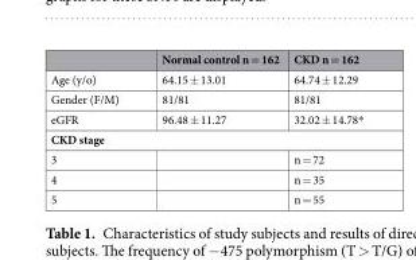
<table><thead><tr><td></td><td>Normal control n = 162</td><td>CKD n = 162</td></tr></thead><tbody><tr><td>Age (y/o)</td><td>64.15 ± 13.01</td><td>64.74 ± 12.29</td></tr><tr><td>Gender (F/M)</td><td>81/81</td><td>81/81</td></tr><tr><td>eGFR</td><td>96.48 ± 11.27</td><td>32.02 ± 14.78*</td></tr><tr><td colspan="3">CKD stage</td></tr><tr><td>3</td><td></td><td>n = 72</td></tr><tr><td>4</td><td></td><td>n = 35</td></tr><tr><td>5</td><td></td><td>n = 55</td></tr></tbody></table>